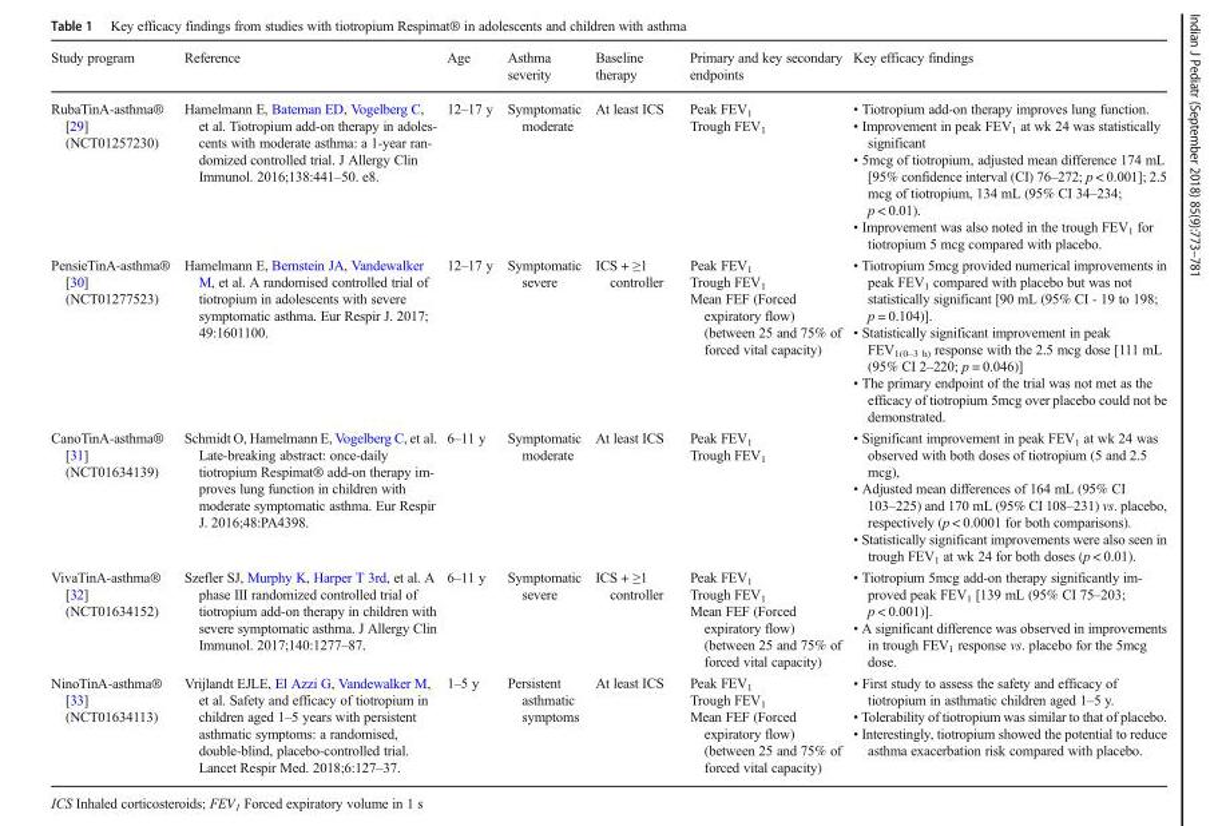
<table><thead><tr><td>Study program</td><td>Reference</td><td>Age</td><td>Asthma severity</td><td>Baseline therapy</td><td>Primary and key secondary endpoints</td><td>Key efficacy findings</td></tr></thead><tbody><tr><td>RubaTinA-asthma® [29] (NCT01257230)</td><td>Hamelmann E, Bateman ED, Vogelberg C, et al. Tiotropium add-on therapy in adoles- cents with moderate asthma: a 1-year ran- domized controlled trial. J Allergy Clin Immunol. 2016;138:441–50. e8.</td><td>12–17 y</td><td>Symptomatic moderate</td><td>At least ICS</td><td>Peak FEV<sub>1</sub> Trough FEV<sub>1</sub></td><td>• Tiotropium add-on therapy improves lung function. • Improvement in peak FEV<sub>1</sub> at wk 24 was statistically significant • 5mcg of tiotropium, adjusted mean difference 174 mL [95% confidence interval (CI) 76–272; p &lt; 0.001]; 2.5 mcg of tiotropium, 134 mL (95% CI 34–234; p &lt; 0.01). • Improvement was also noted in the trough FEV<sub>1</sub> for tiotropium 5 mcg compared with placebo.</td></tr><tr><td>PensieTinA-asthma® [30] (NCT01277523)</td><td>Hamelmann E, Bernstein JA, Vandewalker M, et al. A randomised controlled trial of tiotropium in adolescents with severe symptomatic asthma. Eur Respir J. 2017; 49:1601100.</td><td>12–17 y</td><td>Symptomatic severe</td><td>ICS + ≥1 controller</td><td>Peak FEV<sub>1</sub> Trough FEV<sub>1</sub> Mean FEF (Forced expiratory flow) (between 25 and 75% of forced vital capacity)</td><td>• Tiotropium 5mcg provided numerical improvements in peak FEV<sub>1</sub> compared with placebo but was not statistically significant [90 mL (95% CI - 19 to 198; p = 0.104)]. • Statistically significant improvement in peak FEV<sub>1(0–3 h)</sub> response with the 2.5 mcg dose [111 mL (95% CI 2–220; p = 0.046)] • The primary endpoint of the trial was not met as the efficacy of tiotropium 5mcg over placebo could not be demonstrated.</td></tr><tr><td>CanoTinA-asthma® [31] (NCT01634139)</td><td>Schmidt O, Hamelmann E, Vogelberg C, et al. Late-breaking abstract: once-daily tiotropium Respimat® add-on therapy im- proves lung function in children with moderate symptomatic asthma. Eur Respir J. 2016;48:PA4398.</td><td>6–11 y</td><td>Symptomatic moderate</td><td>At least ICS</td><td>Peak FEV<sub>1</sub> Trough FEV<sub>1</sub></td><td>• Significant improvement in peak FEV<sub>1</sub> at wk 24 was observed with both doses of tiotropium (5 and 2.5 mcg), • Adjusted mean differences of 164 mL (95% CI 103–225) and 170 mL (95% CI 108–231) vs. placebo, respectively (p &lt; 0.0001 for both comparisons). • Statistically significant improvements were also seen in trough FEV<sub>1</sub> at wk 24 for both doses (p &lt; 0.01).</td></tr><tr><td>VivaTinA-asthma® [32] (NCT01634152)</td><td>Szefler SJ, Murphy K, Harper T 3rd, et al. A phase III randomized controlled trial of tiotropium add-on therapy in children with severe symptomatic asthma. J Allergy Clin Immunol. 2017;140:1277–87.</td><td>6–11 y</td><td>Symptomatic severe</td><td>ICS + ≥1 controller</td><td>Peak FEV<sub>1</sub> Trough FEV<sub>1</sub> Mean FEF (Forced expiratory flow) (between 25 and 75% of forced vital capacity)</td><td>• Tiotropium 5mcg add-on therapy significantly im- proved peak FEV1 [139 mL (95% CI 75–203; p &lt; 0.001)]. • A significant difference was observed in improvements in trough FEV1 response vs. placebo for the 5mcg dose.</td></tr><tr><td>NinoTinA-asthma® [33] (NCT01634113)</td><td>Vrijlandt EJLE, El Azzi G, Vandewalker M, et al. Safety and efficacy of tiotropium in children aged 1–5 years with persistent asthmatic symptoms: a randomised, double-blind, placebo-controlled trial. Lancet Respir Med. 2018;6:127–37.</td><td>1–5 y</td><td>Persistent asthmatic symptoms</td><td>At least ICS</td><td>Peak FEV<sub>1</sub> Trough FEV<sub>1</sub> Mean FEF (Forced expiratory flow) (between 25 and 75% of forced vital capacity)</td><td>• First study to assess the safety and efficacy of tiotropium in asthmatic children aged 1–5 y. • Tolerability of tiotropium was similar to that of placebo. • Interestingly, tiotropium showed the potential to reduce asthma exacerbation risk compared with placebo.</td></tr></tbody></table>